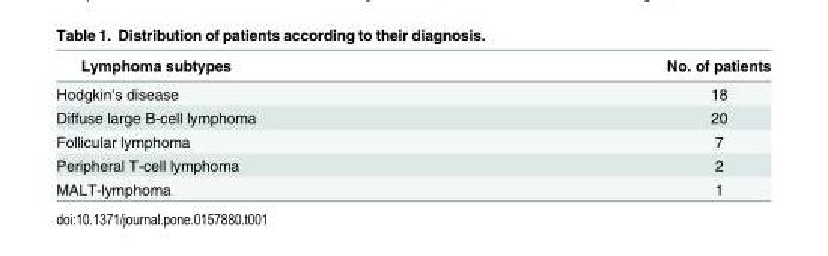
<table><thead><tr><td>Lymphoma subtypes</td><td>No. of patients</td></tr></thead><tbody><tr><td>Hodgkin’s disease</td><td>18</td></tr><tr><td>Diffuse large B-cell lymphoma</td><td>20</td></tr><tr><td>Follicular lymphoma</td><td>7</td></tr><tr><td>Peripheral T-cell lymphoma</td><td>2</td></tr><tr><td>MALT-lymphoma</td><td>1</td></tr></tbody></table>